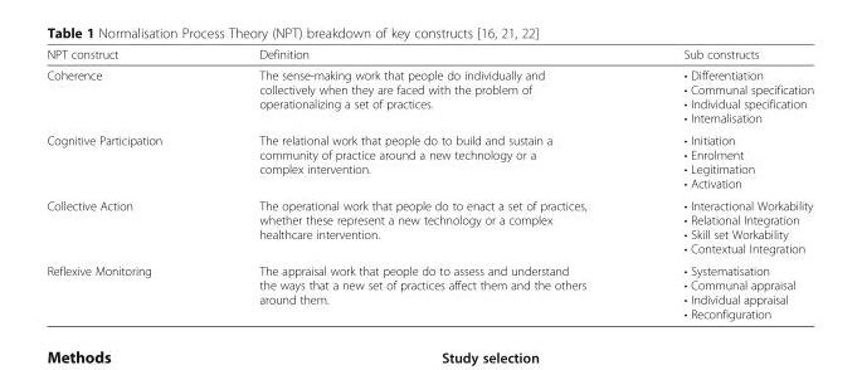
<table><thead><tr><td>NPT construct</td><td>Definition</td><td>Sub constructs</td></tr></thead><tbody><tr><td>Coherence</td><td>The sense-making work that people do individually and collectively when they are faced with the problem of operationalizing a set of practices.</td><td>• Differentiation • Communal specification • Individual specification • Internalisation</td></tr><tr><td>Cognitive Participation</td><td>The relational work that people do to build and sustain a community of practice around a new technology or a complex intervention.</td><td>• Initiation • Enrolment • Legitimation • Activation</td></tr><tr><td>Collective Action</td><td>The operational work that people do to enact a set of practices, whether these represent a new technology or a complex healthcare intervention.</td><td>• Interactional Workability • Relational Integration • Skill set Workability • Contextual Integration</td></tr><tr><td>Reflexive Monitoring</td><td>The appraisal work that people do to assess and understand the ways that a new set of practices affect them and the others around them.</td><td>• Systematisation • Communal appraisal • Individual appraisal • Reconfiguration</td></tr></tbody></table>